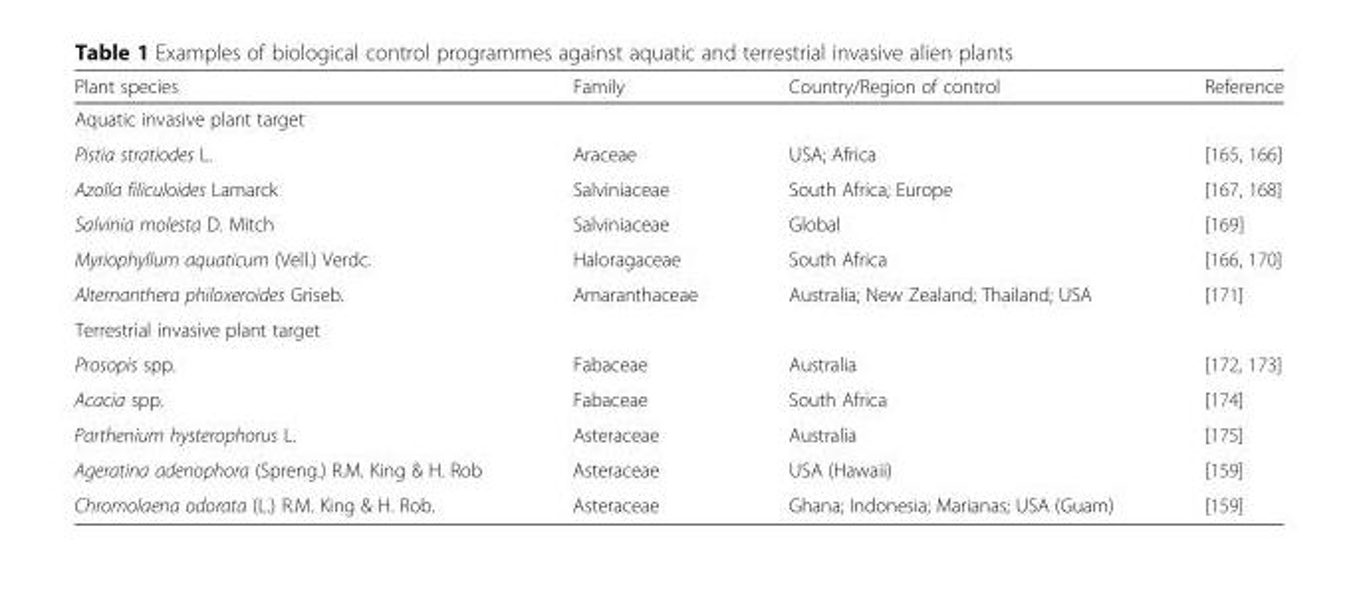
<table><thead><tr><td>Plant species</td><td>Family</td><td>Country/Region of control</td><td>Reference</td></tr></thead><tbody><tr><td colspan="4">Aquatic invasive plant target</td></tr><tr><td>Pistia stratiodes L.</td><td>Araceae</td><td>USA; Africa</td><td>[165, 166]</td></tr><tr><td>Azolla filiculoides Lamarck</td><td>Salviniaceae</td><td>South Africa; Europe</td><td>[167, 168]</td></tr><tr><td>Salvinia molesta D. Mitch</td><td>Salviniaceae</td><td>Global</td><td>[169]</td></tr><tr><td>Myriophyllum aquaticum (Vell.) Verdc.</td><td>Haloragaceae</td><td>South Africa</td><td>[166, 170]</td></tr><tr><td>Alternanthera philoxeroides Griseb.</td><td>Amaranthaceae</td><td>Australia; New Zealand; Thailand; USA</td><td>[171]</td></tr><tr><td colspan="4">Terrestrial invasive plant target</td></tr><tr><td>Prosopis spp.</td><td>Fabaceae</td><td>Australia</td><td>[172, 173]</td></tr><tr><td>Acacia spp.</td><td>Fabaceae</td><td>South Africa</td><td>[174]</td></tr><tr><td>Parthenium hysterophorus L.</td><td>Asteraceae</td><td>Australia</td><td>[175]</td></tr><tr><td>Ageratina adenophora (Spreng.) R.M. King &amp; H. Rob</td><td>Asteraceae</td><td>USA (Hawaii)</td><td>[159]</td></tr><tr><td>Chromolaena odorata (L.) R.M. King &amp; H. Rob.</td><td>Asteraceae</td><td>Ghana; Indonesia; Marianas; USA (Guam)</td><td>[159]</td></tr></tbody></table>